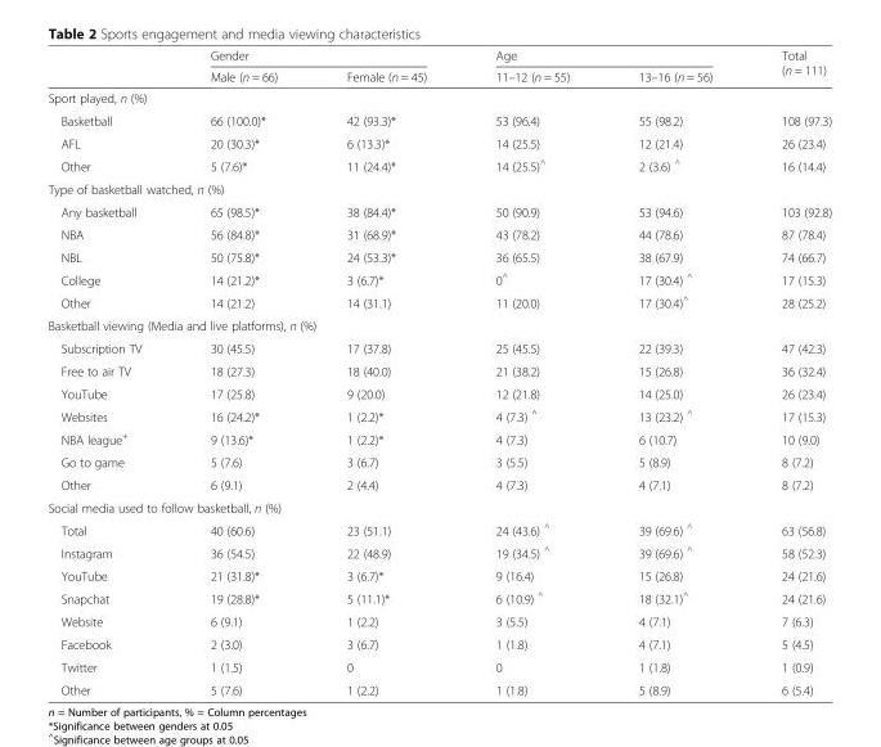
<table><thead><tr><td rowspan="2"></td><td colspan="2">Gender</td><td colspan="2">Age</td><td rowspan="2">Total (n = 111)</td></tr><tr><td>Male (n = 66)</td><td>Female (n = 45)</td><td>11–12 (n = 55)</td><td>13–16 (n = 56)</td></tr></thead><tbody><tr><td colspan="6">Sport played, n (%)</td></tr><tr><td>Basketball</td><td>66 (100.0)*</td><td>42 (93.3)*</td><td>53 (96.4)</td><td>55 (98.2)</td><td>108 (97.3)</td></tr><tr><td>AFL</td><td>20 (30.3)*</td><td>6 (13.3)*</td><td>14 (25.5)</td><td>12 (21.4)</td><td>26 (23.4)</td></tr><tr><td>Other</td><td>5 (7.6)*</td><td>11 (24.4)*</td><td>14 (25.5)<sup>^</sup></td><td>2 (3.6) <sup>^</sup></td><td>16 (14.4)</td></tr><tr><td colspan="6">Type of basketball watched, n (%)</td></tr><tr><td>Any basketball</td><td>65 (98.5)*</td><td>38 (84.4)*</td><td>50 (90.9)</td><td>53 (94.6)</td><td>103 (92.8)</td></tr><tr><td>NBA</td><td>56 (84.8)*</td><td>31 (68.9)*</td><td>43 (78.2)</td><td>44 (78.6)</td><td>87 (78.4)</td></tr><tr><td>NBL</td><td>50 (75.8)*</td><td>24 (53.3)*</td><td>36 (65.5)</td><td>38 (67.9)</td><td>74 (66.7)</td></tr><tr><td>College</td><td>14 (21.2)*</td><td>3 (6.7)*</td><td>0<sup>^</sup></td><td>17 (30.4) <sup>^</sup></td><td>17 (15.3)</td></tr><tr><td>Other</td><td>14 (21.2)</td><td>14 (31.1)</td><td>11 (20.0)</td><td>17 (30.4)<sup>^</sup></td><td>28 (25.2)</td></tr><tr><td colspan="6">Basketball viewing (Media and live platforms), n (%)</td></tr><tr><td>Subscription TV</td><td>30 (45.5)</td><td>17 (37.8)</td><td>25 (45.5)</td><td>22 (39.3)</td><td>47 (42.3)</td></tr><tr><td>Free to air TV</td><td>18 (27.3)</td><td>18 (40.0)</td><td>21 (38.2)</td><td>15 (26.8)</td><td>36 (32.4)</td></tr><tr><td>YouTube</td><td>17 (25.8)</td><td>9 (20.0)</td><td>12 (21.8)</td><td>14 (25.0)</td><td>26 (23.4)</td></tr><tr><td>Websites</td><td>16 (24.2)*</td><td>1 (2.2)*</td><td>4 (7.3) <sup>^</sup></td><td>13 (23.2) <sup>^</sup></td><td>17 (15.3)</td></tr><tr><td>NBA league<sup>+</sup></td><td>9 (13.6)*</td><td>1 (2.2)*</td><td>4 (7.3)</td><td>6 (10.7)</td><td>10 (9.0)</td></tr><tr><td>Go to game</td><td>5 (7.6)</td><td>3 (6.7)</td><td>3 (5.5)</td><td>5 (8.9)</td><td>8 (7.2)</td></tr><tr><td>Other</td><td>6 (9.1)</td><td>2 (4.4)</td><td>4 (7.3)</td><td>4 (7.1)</td><td>8 (7.2)</td></tr><tr><td colspan="6">Social media used to follow basketball, n (%)</td></tr><tr><td>Total</td><td>40 (60.6)</td><td>23 (51.1)</td><td>24 (43.6) <sup>^</sup></td><td>39 (69.6) <sup>^</sup></td><td>63 (56.8)</td></tr><tr><td>Instagram</td><td>36 (54.5)</td><td>22 (48.9)</td><td>19 (34.5) <sup>^</sup></td><td>39 (69.6) <sup>^</sup></td><td>58 (52.3)</td></tr><tr><td>YouTube</td><td>21 (31.8)*</td><td>3 (6.7)*</td><td>9 (16.4)</td><td>15 (26.8)</td><td>24 (21.6)</td></tr><tr><td>Snapchat</td><td>19 (28.8)*</td><td>5 (11.1)*</td><td>6 (10.9) <sup>^</sup></td><td>18 (32.1)<sup>^</sup></td><td>24 (21.6)</td></tr><tr><td>Website</td><td>6 (9.1)</td><td>1 (2.2)</td><td>3 (5.5)</td><td>4 (7.1)</td><td>7 (6.3)</td></tr><tr><td>Facebook</td><td>2 (3.0)</td><td>3 (6.7)</td><td>1 (1.8)</td><td>4 (7.1)</td><td>5 (4.5)</td></tr><tr><td>Twitter</td><td>1 (1.5)</td><td>0</td><td>0</td><td>1 (1.8)</td><td>1 (0.9)</td></tr><tr><td>Other</td><td>5 (7.6)</td><td>1 (2.2)</td><td>1 (1.8)</td><td>5 (8.9)</td><td>6 (5.4)</td></tr></tbody></table>